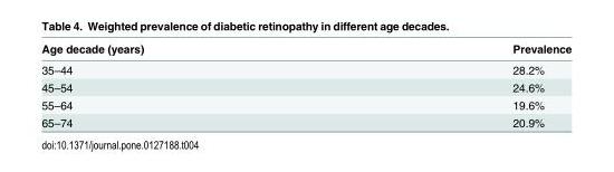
<table><thead><tr><td>Age decade (years)</td><td>Prevalence</td></tr></thead><tbody><tr><td>35–44</td><td>28.2%</td></tr><tr><td>45–54</td><td>24.6%</td></tr><tr><td>55–64</td><td>19.6%</td></tr><tr><td>65–74</td><td>20.9%</td></tr></tbody></table>